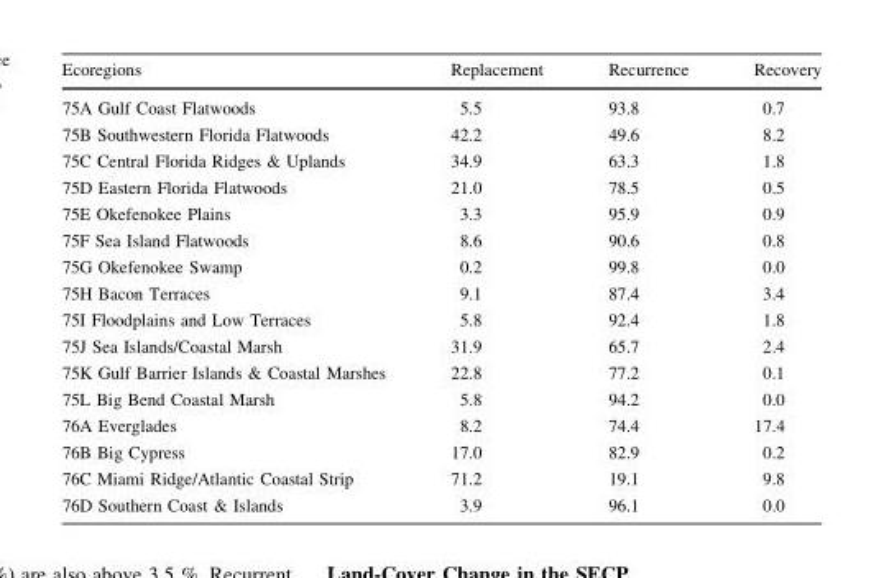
<table><thead><tr><td>Ecoregions</td><td>Replacement</td><td>Recurrence</td><td>Recovery</td></tr></thead><tbody><tr><td>75A Gulf Coast Flatwoods</td><td>5.5</td><td>93.8</td><td>0.7</td></tr><tr><td>75B Southwestern Florida Flatwoods</td><td>42.2</td><td>49.6</td><td>8.2</td></tr><tr><td>75C Central Florida Ridges &amp; Uplands</td><td>34.9</td><td>63.3</td><td>1.8</td></tr><tr><td>75D Eastern Florida Flatwoods</td><td>21.0</td><td>78.5</td><td>0.5</td></tr><tr><td>75E Okefenokee Plains</td><td>3.3</td><td>95.9</td><td>0.9</td></tr><tr><td>75F Sea Island Flatwoods</td><td>8.6</td><td>90.6</td><td>0.8</td></tr><tr><td>75G Okefenokee Swamp</td><td>0.2</td><td>99.8</td><td>0.0</td></tr><tr><td>75H Bacon Terraces</td><td>9.1</td><td>87.4</td><td>3.4</td></tr><tr><td>75I Floodplains and Low Terraces</td><td>5.8</td><td>92.4</td><td>1.8</td></tr><tr><td>75J Sea Islands/Coastal Marsh</td><td>31.9</td><td>65.7</td><td>2.4</td></tr><tr><td>75K Gulf Barrier Islands &amp; Coastal Marshes</td><td>22.8</td><td>77.2</td><td>0.1</td></tr><tr><td>75L Big Bend Coastal Marsh</td><td>5.8</td><td>94.2</td><td>0.0</td></tr><tr><td>76A Everglades</td><td>8.2</td><td>74.4</td><td>17.4</td></tr><tr><td>76B Big Cypress</td><td>17.0</td><td>82.9</td><td>0.2</td></tr><tr><td>76C Miami Ridge/Atlantic Coastal Strip</td><td>71.2</td><td>19.1</td><td>9.8</td></tr><tr><td>76D Southern Coast &amp; Islands</td><td>3.9</td><td>96.1</td><td>0.0</td></tr></tbody></table>